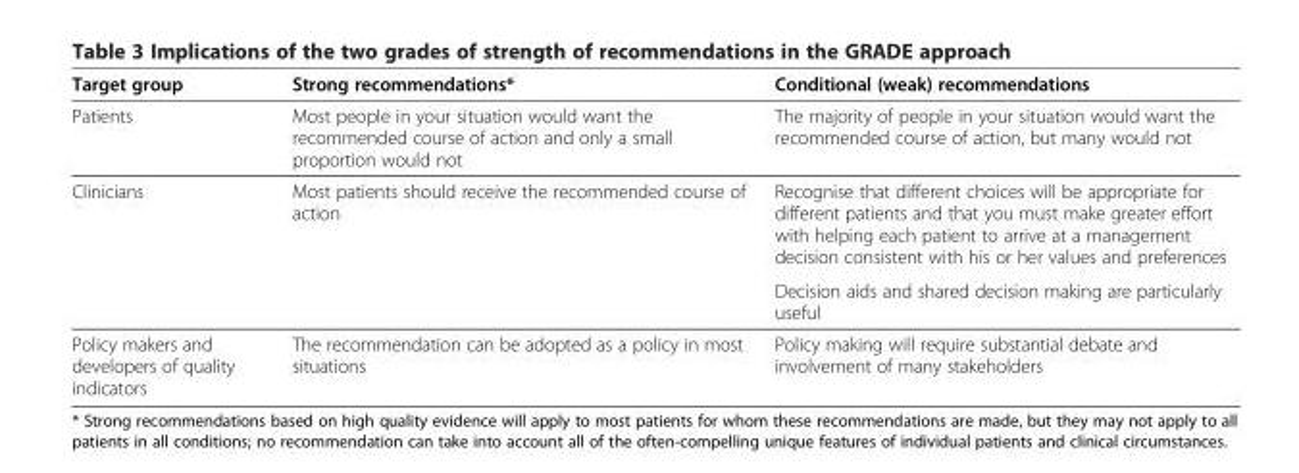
<table><thead><tr><td>Target group</td><td>Strong recommendations*</td><td>Conditional (weak) recommendations</td></tr></thead><tbody><tr><td>Patients</td><td>Most people in your situation would want the recommended course of action and only a small proportion would not</td><td>The majority of people in your situation would want the recommended course of action, but many would not</td></tr><tr><td rowspan="2">Clinicians</td><td>Most patients should receive the recommended course of action</td><td>Recognise that different choices will be appropriate for different patients and that you must make greater effort with helping each patient to arrive at a management decision consistent with his or her values and preferences</td></tr><tr><td></td><td>Decision aids and shared decision making are particularly useful</td></tr><tr><td>Policy makers and developers of quality indicators</td><td>The recommendation can be adopted as a policy in most situations</td><td>Policy making will require substantial debate and involvement of many stakeholders</td></tr></tbody></table>